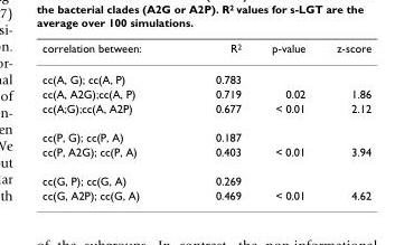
<table><thead><tr><td>correlation between:</td><td>R<sup>2</sup></td><td>p-value</td><td>z-score</td></tr></thead><tbody><tr><td>cc(A, G); cc(A, P)</td><td>0.783</td><td></td><td></td></tr><tr><td>cc(A, A2G);cc(A, P)</td><td>0.719</td><td>0.02</td><td>1.86</td></tr><tr><td>cc(A;G);cc(A, A2P)</td><td>0.677</td><td>&lt; 0.01</td><td>2.12</td></tr><tr><td>cc(P, G); cc(P, A)</td><td>0.187</td><td></td><td></td></tr><tr><td>cc(P, A2G); cc(P, A)</td><td>0.403</td><td>&lt; 0.01</td><td>3.94</td></tr><tr><td>cc(G, P); cc(G, A)</td><td>0.269</td><td></td><td></td></tr><tr><td>cc(G, A2P); cc(G, A)</td><td>0.469</td><td>&lt; 0.01</td><td>4.62</td></tr></tbody></table>